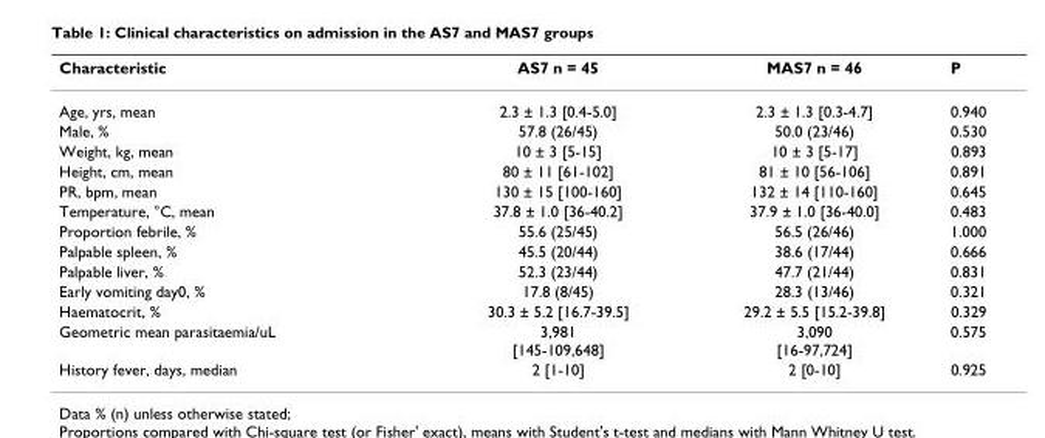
<table><thead><tr><td>Characteristic</td><td>AS7 n = 45</td><td>MAS7 n = 46</td><td>P</td></tr></thead><tbody><tr><td>Age, yrs, mean</td><td>2.3 ± 1.3 [0.4-5.0]</td><td>2.3 ± 1.3 [0.3-4.7]</td><td>0.940</td></tr><tr><td>Male, %</td><td>57.8 (26/45)</td><td>50.0 (23/46)</td><td>0.530</td></tr><tr><td>Weight, kg, mean</td><td>10 ± 3 [5-15]</td><td>10 ± 3 [5-17]</td><td>0.893</td></tr><tr><td>Height, cm, mean</td><td>80 ± 11 [61-102]</td><td>81 ± 10 [56-106]</td><td>0.891</td></tr><tr><td>PR, bpm, mean</td><td>130 ± 15 [100-160]</td><td>132 ± 14 [110-160]</td><td>0.645</td></tr><tr><td>Temperature, °C, mean</td><td>37.8 ± 1.0 [36-40.2]</td><td>37.9 ± 1.0 [36-40.0]</td><td>0.483</td></tr><tr><td>Proportion febrile, %</td><td>55.6 (25/45)</td><td>56.5 (26/46)</td><td>1.000</td></tr><tr><td>Palpable spleen, %</td><td>45.5 (20/44)</td><td>38.6 (17/44)</td><td>0.666</td></tr><tr><td>Palpable liver, %</td><td>52.3 (23/44)</td><td>47.7 (21/44)</td><td>0.831</td></tr><tr><td>Early vomiting day0, %</td><td>17.8 (8/45)</td><td>28.3 (13/46)</td><td>0.321</td></tr><tr><td>Haematocrit, %</td><td>30.3 ± 5.2 [16.7-39.5]</td><td>29.2 ± 5.5 [15.2-39.8]</td><td>0.329</td></tr><tr><td>Geometric mean parasitaemia/uL</td><td>3,981 [145-109,648]</td><td>3,090 [16-97,724]</td><td>0.575</td></tr><tr><td>History fever, days, median</td><td>2 [1-10]</td><td>2 [0-10]</td><td>0.925</td></tr></tbody></table>